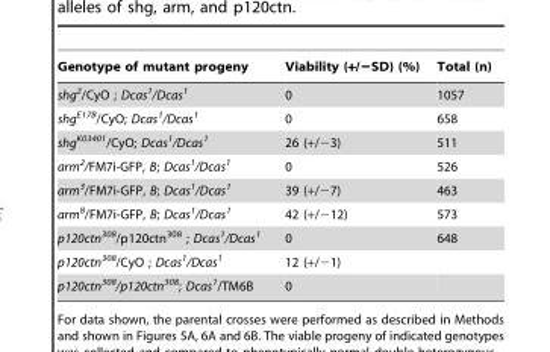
<table><thead><tr><td>Genotype of mutant progeny</td><td>Viability (+/−SD) (%)</td><td>Total (n)</td></tr></thead><tbody><tr><td>shg<sup>2</sup>/CyO ; Dcas<sup>1</sup>/Dcas<sup>1</sup></td><td>0</td><td>1057</td></tr><tr><td>shg<sup>E17B</sup>/CyO; Dcas<sup>1</sup>/Dcas<sup>1</sup></td><td>0</td><td>658</td></tr><tr><td>shg<sup>K03401</sup>/CyO; Dcas<sup>1</sup>/Dcas<sup>1</sup></td><td>26 (+/−3)</td><td>511</td></tr><tr><td>arm<sup>2</sup>/FM7i-GFP, B; Dcas<sup>1</sup>/Dcas<sup>1</sup></td><td>0</td><td>526</td></tr><tr><td>arm<sup>3</sup>/FM7i-GFP, B; Dcas<sup>1</sup>/Dcas<sup>1</sup></td><td>39 (+/−7)</td><td>463</td></tr><tr><td>arm<sup>8</sup>/FM7i-GFP, B; Dcas<sup>1</sup>/Dcas<sup>1</sup></td><td>42 (+/−12)</td><td>573</td></tr><tr><td>p120ctn<sup>308</sup>/p120ctn<sup>308</sup> ; Dcas<sup>1</sup>/Dcas<sup>1</sup></td><td>0</td><td>648</td></tr><tr><td>p120ctn<sup>308</sup>/CyO ; Dcas<sup>1</sup>/Dcas<sup>1</sup></td><td>12 (+/−1)</td><td></td></tr><tr><td>p120ctn<sup>308</sup>/p120ctn<sup>308</sup>; Dcas<sup>1</sup>/TM6B</td><td>0</td><td></td></tr></tbody></table>